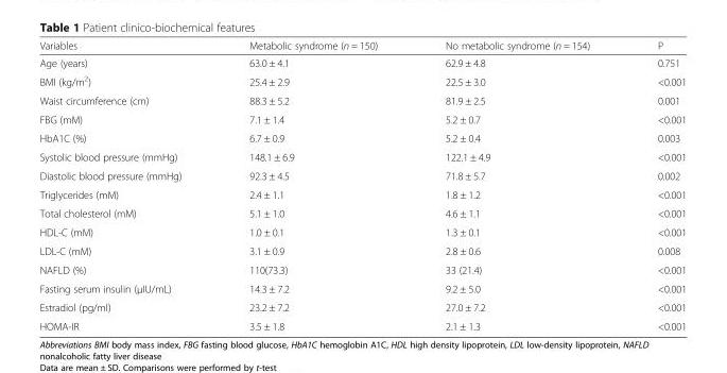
<table><thead><tr><td>Variables</td><td>Metabolic syndrome (n = 150)</td><td>No metabolic syndrome (n = 154)</td><td>P</td></tr></thead><tbody><tr><td>Age (years)</td><td>63.0 ± 4.1</td><td>62.9 ± 4.8</td><td>0.751</td></tr><tr><td>BMI (kg/m<sup>2</sup>)</td><td>25.4 ± 2.9</td><td>22.5 ± 3.0</td><td>&lt;0.001</td></tr><tr><td>Waist circumference (cm)</td><td>88.3 ± 5.2</td><td>81.9 ± 2.5</td><td>0.001</td></tr><tr><td>FBG (mM)</td><td>7.1 ± 1.4</td><td>5.2 ± 0.7</td><td>&lt;0.001</td></tr><tr><td>HbA1C (%)</td><td>6.7 ± 0.9</td><td>5.2 ± 0.4</td><td>0.003</td></tr><tr><td>Systolic blood pressure (mmHg)</td><td>148.1 ± 6.9</td><td>122.1 ± 4.9</td><td>&lt;0.001</td></tr><tr><td>Diastolic blood pressure (mmHg)</td><td>92.3 ± 4.5</td><td>71.8 ± 5.7</td><td>0.002</td></tr><tr><td>Triglycerides (mM)</td><td>2.4 ± 1.1</td><td>1.8 ± 1.2</td><td>&lt;0.001</td></tr><tr><td>Total cholesterol (mM)</td><td>5.1 ± 1.0</td><td>4.6 ± 1.1</td><td>&lt;0.001</td></tr><tr><td>HDL-C (mM)</td><td>1.0 ± 0.1</td><td>1.3 ± 0.1</td><td>&lt;0.001</td></tr><tr><td>LDL-C (mM)</td><td>3.1 ± 0.9</td><td>2.8 ± 0.6</td><td>0.008</td></tr><tr><td>NAFLD (%)</td><td>110(73.3)</td><td>33 (21.4)</td><td>&lt;0.001</td></tr><tr><td>Fasting serum insulin (μIU/mL)</td><td>14.3 ± 7.2</td><td>9.2 ± 5.0</td><td>&lt;0.001</td></tr><tr><td>Estradiol (pg/ml)</td><td>23.2 ± 7.2</td><td>27.0 ± 7.2</td><td>&lt;0.001</td></tr><tr><td>HOMA-IR</td><td>3.5 ± 1.8</td><td>2.1 ± 1.3</td><td>&lt;0.001</td></tr></tbody></table>